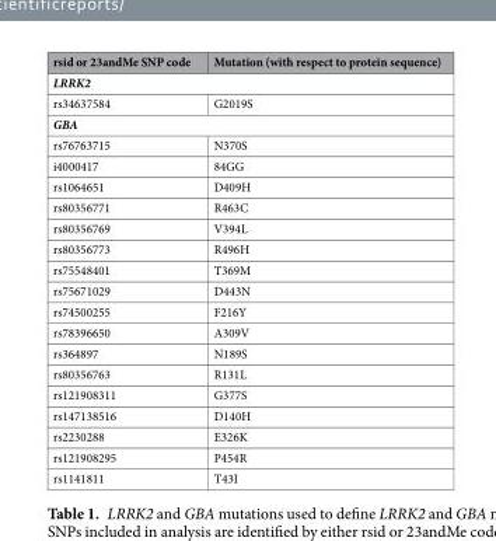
<table><thead><tr><td>rsid or 23andMe SNP code</td><td>Mutation (with respect to protein sequence)</td></tr></thead><tbody><tr><td colspan="2">LRRK2</td></tr><tr><td>rs34637584</td><td>G2019S</td></tr><tr><td colspan="2">GBA</td></tr><tr><td>rs76763715</td><td>N370S</td></tr><tr><td>i4000417</td><td>84GG</td></tr><tr><td>rs1064651</td><td>D409H</td></tr><tr><td>rs80356771</td><td>R463C</td></tr><tr><td>rs80356769</td><td>V394L</td></tr><tr><td>rs80356773</td><td>R496H</td></tr><tr><td>rs75548401</td><td>T369M</td></tr><tr><td>rs75671029</td><td>D443N</td></tr><tr><td>rs74500255</td><td>F216Y</td></tr><tr><td>rs78396650</td><td>A309V</td></tr><tr><td>rs364897</td><td>N189S</td></tr><tr><td>rs80356763</td><td>R131L</td></tr><tr><td>rs121908311</td><td>G377S</td></tr><tr><td>rs147138516</td><td>D140H</td></tr><tr><td>rs2230288</td><td>E326K</td></tr><tr><td>rs121908295</td><td>P454R</td></tr><tr><td>rs1141811</td><td>T43I</td></tr></tbody></table>